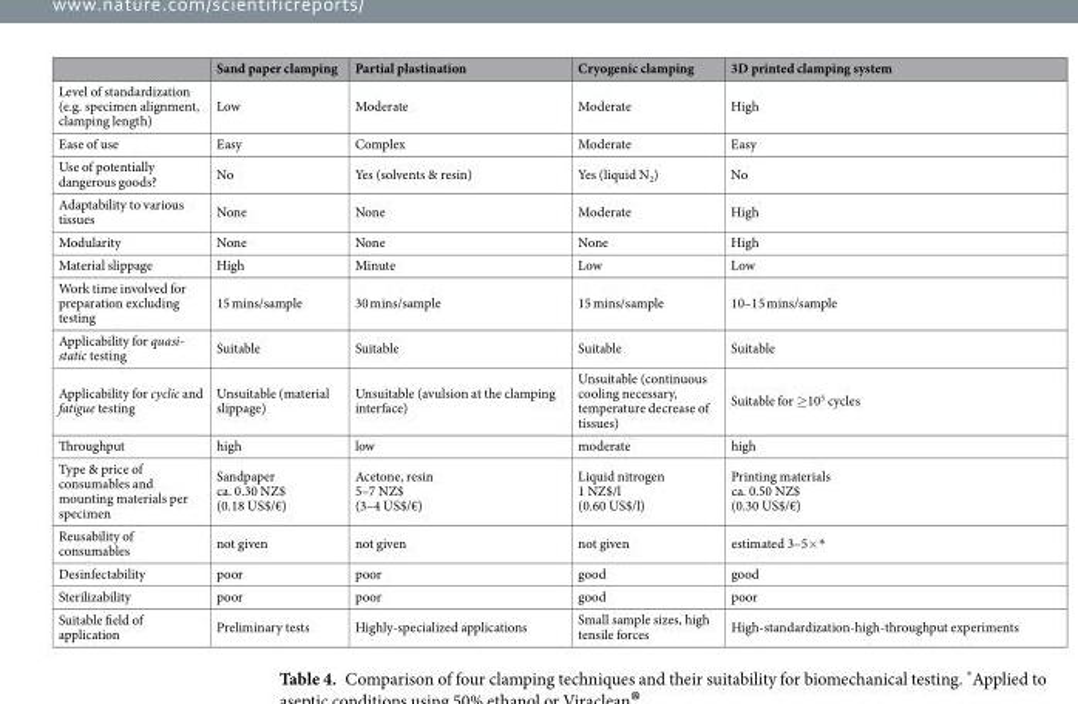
<table><thead><tr><td></td><td>Sand paper clamping</td><td>Partial plastination</td><td>Cryogenic clamping</td><td>3D printed clamping system</td></tr></thead><tbody><tr><td>Level of standardization (e.g. specimen alignment, clamping length)</td><td>Low</td><td>Moderate</td><td>Moderate</td><td>High</td></tr><tr><td>Ease of use</td><td>Easy</td><td>Complex</td><td>Moderate</td><td>Easy</td></tr><tr><td>Use of potentially dangerous goods?</td><td>No</td><td>Yes (solvents &amp; resin)</td><td>Yes (liquid N<sub>2</sub>)</td><td>No</td></tr><tr><td>Adaptability to various tissues</td><td>None</td><td>None</td><td>Moderate</td><td>High</td></tr><tr><td>Modularity</td><td>None</td><td>None</td><td>None</td><td>High</td></tr><tr><td>Material slippage</td><td>High</td><td>Minute</td><td>Low</td><td>Low</td></tr><tr><td>Work time involved for preparation excluding testing</td><td>15 mins/sample</td><td>30 mins/sample</td><td>15 mins/sample</td><td>10–15 mins/sample</td></tr><tr><td>Applicability for quasi- static testing</td><td>Suitable</td><td>Suitable</td><td>Suitable</td><td>Suitable</td></tr><tr><td>Applicability for cyclic and fatigue testing</td><td>Unsuitable (material slippage)</td><td>Unsuitable (avulsion at the clamping interface)</td><td>Unsuitable (continuous cooling necessary, temperature decrease of tissues)</td><td>Suitable for ≥10<sup>5</sup> cycles</td></tr><tr><td>Throughput</td><td>high</td><td>low</td><td>moderate</td><td>high</td></tr><tr><td>Type &amp; price of consumables and mounting materials per specimen</td><td>Sandpaper ca. 0.30 NZ$ (0.18 US$/€)</td><td>Acetone, resin 5–7 NZ$ (3–4 US$/€)</td><td>Liquid nitrogen 1 NZ$/l (0.60 US$/l)</td><td>Printing materials ca. 0.50 NZ$ (0.30 US$/€)</td></tr><tr><td>Reusability of consumables</td><td>not given</td><td>not given</td><td>not given</td><td>estimated 3–5×*</td></tr><tr><td>Desinfectability</td><td>poor</td><td>poor</td><td>good</td><td>good</td></tr><tr><td>Sterilizability</td><td>poor</td><td>poor</td><td>good</td><td>poor</td></tr><tr><td>Suitable field of application</td><td>Preliminary tests</td><td>Highly-specialized applications</td><td>Small sample sizes, high tensile forces</td><td>High-standardization-high-throughput experiments</td></tr></tbody></table>